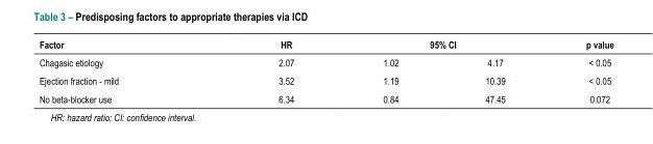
<table><thead><tr><td rowspan="2">Factor Chagasic etiology</td><td rowspan="2">HR 2.07</td><td colspan="2">95% CI</td><td rowspan="2">p value &lt; 0.05</td></tr><tr><td>1.02</td><td>4.17</td></tr></thead><tbody><tr><td>Ejection fraction - mild</td><td>3.52</td><td>1.19</td><td>10.39</td><td>&lt; 0.05</td></tr><tr><td>No beta-blocker use</td><td>6.34</td><td>0.84</td><td>47.45</td><td>0.072</td></tr></tbody></table>